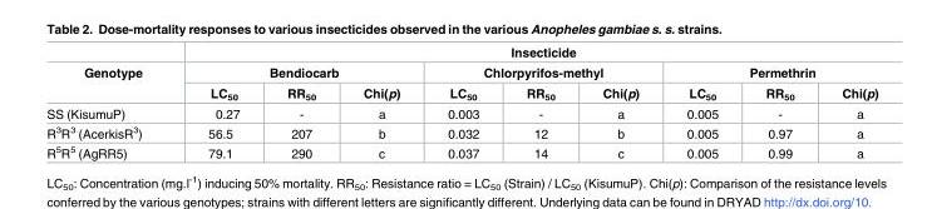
<table><thead><tr><td rowspan="3">Genotype</td><td colspan="9">Insecticide</td></tr><tr><td colspan="3">Bendiocarb</td><td colspan="3">Chlorpyrifos-methyl</td><td colspan="3">Permethrin</td></tr><tr><td>LC<sub>50</sub></td><td>RR<sub>50</sub></td><td>Chi(p)</td><td>LC<sub>50</sub></td><td>RR<sub>50</sub></td><td>Chi(p)</td><td>LC<sub>50</sub></td><td>RR<sub>50</sub></td><td>Chi(p)</td></tr></thead><tbody><tr><td>SS (KisumuP)</td><td>0.27</td><td>-</td><td>a</td><td>0.003</td><td>-</td><td>a</td><td>0.005</td><td>-</td><td>a</td></tr><tr><td>R<sup>3</sup>R<sup>3</sup> (AcerkisR<sup>3</sup>)</td><td>56.5</td><td>207</td><td>b</td><td>0.032</td><td>12</td><td>b</td><td>0.005</td><td>0.97</td><td>a</td></tr><tr><td>R<sup>5</sup>R<sup>5</sup> (AgRR5)</td><td>79.1</td><td>290</td><td>c</td><td>0.037</td><td>14</td><td>c</td><td>0.005</td><td>0.99</td><td>a</td></tr></tbody></table>